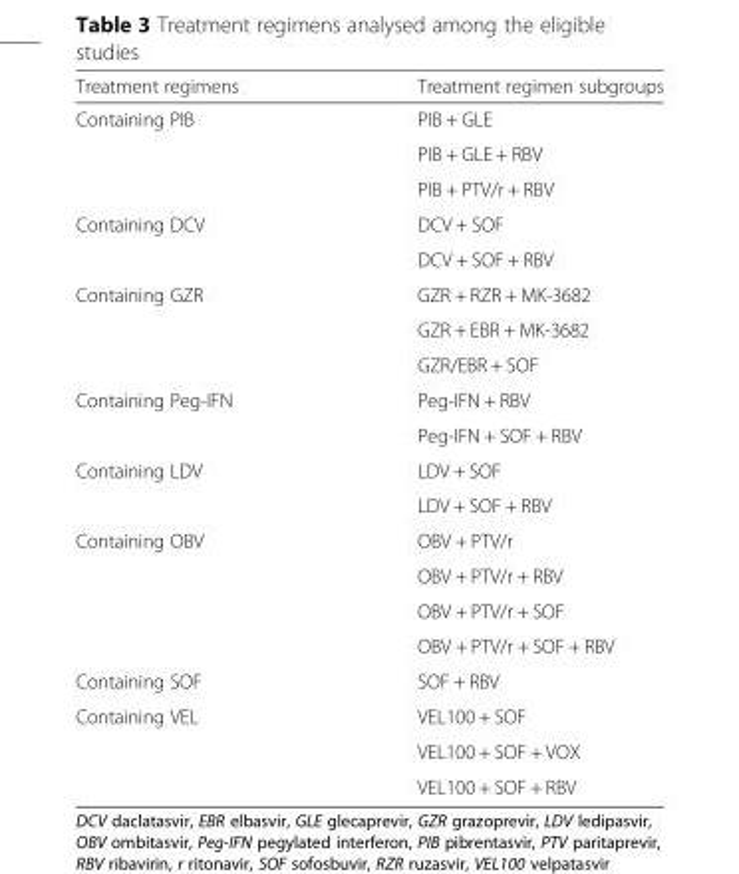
<table><thead><tr><td>Treatment regimens</td><td>Treatment regimen subgroups</td></tr></thead><tbody><tr><td rowspan="3">Containing PIB</td><td>PIB + GLE</td></tr><tr><td>PIB + GLE + RBV</td></tr><tr><td>PIB + PTV/r + RBV</td></tr><tr><td rowspan="2">Containing DCV</td><td>DCV + SOF</td></tr><tr><td>DCV + SOF + RBV</td></tr><tr><td rowspan="3">Containing GZR</td><td>GZR + RZR + MK-3682</td></tr><tr><td>GZR + EBR + MK-3682</td></tr><tr><td>GZR/EBR + SOF</td></tr><tr><td rowspan="2">Containing Peg-IFN</td><td>Peg-IFN + RBV</td></tr><tr><td>Peg-IFN + SOF + RBV</td></tr><tr><td rowspan="2">Containing LDV</td><td>LDV + SOF</td></tr><tr><td>LDV + SOF + RBV</td></tr><tr><td rowspan="4">Containing OBV</td><td>OBV + PTV/r</td></tr><tr><td>OBV + PTV/r + RBV</td></tr><tr><td>OBV + PTV/r + SOF</td></tr><tr><td>OBV + PTV/r + SOF + RBV</td></tr><tr><td>Containing SOF</td><td>SOF + RBV</td></tr><tr><td rowspan="3">Containing VEL</td><td>VEL100 + SOF</td></tr><tr><td>VEL100 + SOF + VOX</td></tr><tr><td>VEL100 + SOF + RBV</td></tr></tbody></table>